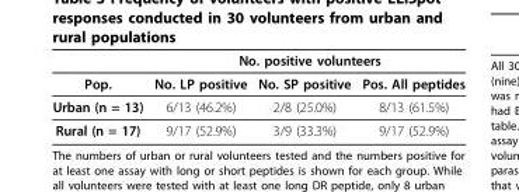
<table><thead><tr><td rowspan="2">Pop.</td><td colspan="3">No. positive volunteers</td></tr><tr><td>No. LP positive</td><td>No. SP positive</td><td>Pos. All peptides</td></tr></thead><tbody><tr><td>Urban (n = 13)</td><td>6/13 (46.2%)</td><td>2/8 (25.0%)</td><td>8/13 (61.5%)</td></tr><tr><td>Rural (n = 17)</td><td>9/17 (52.9%)</td><td>3/9 (33.3%)</td><td>9/17 (52.9%)</td></tr></tbody></table>